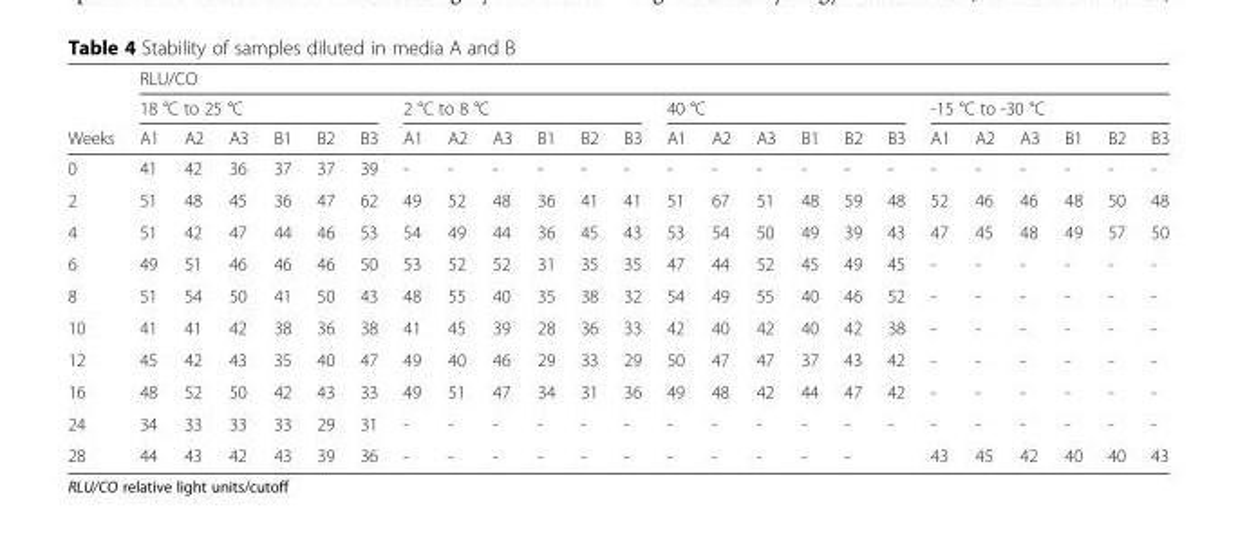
<table><thead><tr><td rowspan="3">Weeks</td><td colspan="24">RLU/CO</td></tr><tr><td colspan="6">18 °C to 25 °C</td><td colspan="6">2 °C to 8 °C</td><td colspan="6">40 °C</td><td colspan="6">-15 °C to -30 °C</td></tr><tr><td>A1</td><td>A2</td><td>A3</td><td>B1</td><td>B2</td><td>B3</td><td>A1</td><td>A2</td><td>A3</td><td>B1</td><td>B2</td><td>B3</td><td>A1</td><td>A2</td><td>A3</td><td>B1</td><td>B2</td><td>B3</td><td>A1</td><td>A2</td><td>A3</td><td>B1</td><td>B2</td><td>B3</td></tr></thead><tbody><tr><td>0</td><td>41</td><td>42</td><td>36</td><td>37</td><td>37</td><td>39</td><td>-</td><td>-</td><td>-</td><td>-</td><td>-</td><td>-</td><td>-</td><td>-</td><td>-</td><td>-</td><td>-</td><td>-</td><td>-</td><td>-</td><td>-</td><td>-</td><td>-</td><td>-</td></tr><tr><td>2</td><td>51</td><td>48</td><td>45</td><td>36</td><td>47</td><td>62</td><td>49</td><td>52</td><td>48</td><td>36</td><td>41</td><td>41</td><td>51</td><td>67</td><td>51</td><td>48</td><td>59</td><td>48</td><td>52</td><td>46</td><td>46</td><td>48</td><td>50</td><td>48</td></tr><tr><td>4</td><td>51</td><td>42</td><td>47</td><td>44</td><td>46</td><td>53</td><td>54</td><td>49</td><td>44</td><td>36</td><td>45</td><td>43</td><td>53</td><td>54</td><td>50</td><td>49</td><td>39</td><td>43</td><td>47</td><td>45</td><td>48</td><td>49</td><td>57</td><td>50</td></tr><tr><td>6</td><td>49</td><td>51</td><td>46</td><td>46</td><td>46</td><td>50</td><td>53</td><td>52</td><td>52</td><td>31</td><td>35</td><td>35</td><td>47</td><td>44</td><td>52</td><td>45</td><td>49</td><td>45</td><td>-</td><td>-</td><td>-</td><td>-</td><td>-</td><td>-</td></tr><tr><td>8</td><td>51</td><td>54</td><td>50</td><td>41</td><td>50</td><td>43</td><td>48</td><td>55</td><td>40</td><td>35</td><td>38</td><td>32</td><td>54</td><td>49</td><td>55</td><td>40</td><td>46</td><td>52</td><td>-</td><td>-</td><td>-</td><td>-</td><td>-</td><td>-</td></tr><tr><td>10</td><td>41</td><td>41</td><td>42</td><td>38</td><td>36</td><td>38</td><td>41</td><td>45</td><td>39</td><td>28</td><td>36</td><td>33</td><td>42</td><td>40</td><td>42</td><td>40</td><td>42</td><td>38</td><td>-</td><td>-</td><td>-</td><td>-</td><td>-</td><td>-</td></tr><tr><td>12</td><td>45</td><td>42</td><td>43</td><td>35</td><td>40</td><td>47</td><td>49</td><td>40</td><td>46</td><td>29</td><td>33</td><td>29</td><td>50</td><td>47</td><td>47</td><td>37</td><td>43</td><td>42</td><td>-</td><td>-</td><td>-</td><td>-</td><td>-</td><td>-</td></tr><tr><td>16</td><td>48</td><td>52</td><td>50</td><td>42</td><td>43</td><td>33</td><td>49</td><td>51</td><td>47</td><td>34</td><td>31</td><td>36</td><td>49</td><td>48</td><td>42</td><td>44</td><td>47</td><td>42</td><td>-</td><td>-</td><td>-</td><td>-</td><td>-</td><td>-</td></tr><tr><td>24</td><td>34</td><td>33</td><td>33</td><td>33</td><td>29</td><td>31</td><td>-</td><td>-</td><td>-</td><td>-</td><td>-</td><td>-</td><td>-</td><td>-</td><td>-</td><td>-</td><td>-</td><td>-</td><td>-</td><td>-</td><td>-</td><td>-</td><td>-</td><td>-</td></tr><tr><td>28</td><td>44</td><td>43</td><td>42</td><td>43</td><td>39</td><td>36</td><td>-</td><td>-</td><td>-</td><td>-</td><td>-</td><td>-</td><td>-</td><td>-</td><td>-</td><td>-</td><td>-</td><td></td><td>43</td><td>45</td><td>42</td><td>40</td><td>40</td><td>43</td></tr></tbody></table>